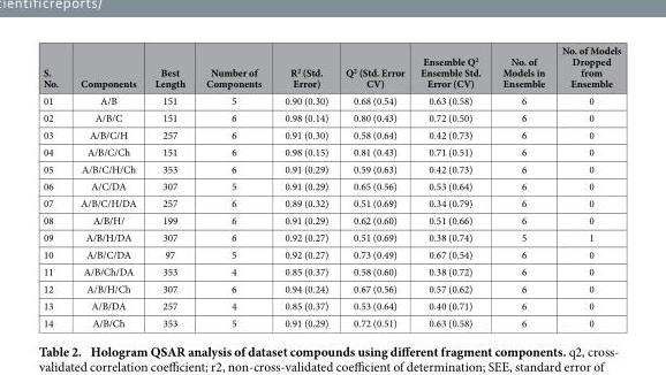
<table><thead><tr><td>S. No.</td><td>Components</td><td>Best Length</td><td>Number of Components</td><td>R<sup>2</sup> (Std. Error)</td><td>Q<sup>2</sup> (Std. Error CV)</td><td>Ensemble Q<sup>2</sup> Ensemble Std. Error (CV)</td><td>No. of Models in Ensemble</td><td>No. of Models Dropped from Ensemble</td></tr></thead><tbody><tr><td>01</td><td>A/B</td><td>151</td><td>5</td><td>0.90 (0.30)</td><td>0.68 (0.54)</td><td>0.63 (0.58)</td><td>6</td><td>0</td></tr><tr><td>02</td><td>A/B/C</td><td>151</td><td>6</td><td>0.98 (0.14)</td><td>0.80 (0.43)</td><td>0.72 (0.50)</td><td>6</td><td>0</td></tr><tr><td>03</td><td>A/B/C/H</td><td>257</td><td>6</td><td>0.91 (0.30)</td><td>0.58 (0.64)</td><td>0.42 (0.73)</td><td>6</td><td>0</td></tr><tr><td>04</td><td>A/B/C/Ch</td><td>151</td><td>6</td><td>0.98 (0.15)</td><td>0.81 (0.43)</td><td>0.71 (0.51)</td><td>6</td><td>0</td></tr><tr><td>05</td><td>A/B/C/H/Ch</td><td>353</td><td>6</td><td>0.91 (0.29)</td><td>0.59 (0.63)</td><td>0.42 (0.73)</td><td>6</td><td>0</td></tr><tr><td>06</td><td>A/C/DA</td><td>307</td><td>5</td><td>0.91 (0.29)</td><td>0.65 (0.56)</td><td>0.53 (0.64)</td><td>6</td><td>0</td></tr><tr><td>07</td><td>A/B/C/H/DA</td><td>257</td><td>6</td><td>0.89 (0.32)</td><td>0.51 (0.69)</td><td>0.34 (0.79)</td><td>6</td><td>0</td></tr><tr><td>08</td><td>A/B/H/</td><td>199</td><td>6</td><td>0.91 (0.29)</td><td>0.62 (0.60)</td><td>0.51 (0.66)</td><td>6</td><td>0</td></tr><tr><td>09</td><td>A/B/H/DA</td><td>307</td><td>6</td><td>0.92 (0.27)</td><td>0.51 (0.69)</td><td>0.38 (0.74)</td><td>5</td><td>1</td></tr><tr><td>10</td><td>A/B/C/DA</td><td>97</td><td>5</td><td>0.92 (0.27)</td><td>0.73 (0.49)</td><td>0.67 (0.54)</td><td>6</td><td>0</td></tr><tr><td>11</td><td>A/B/Ch/DA</td><td>353</td><td>4</td><td>0.85 (0.37)</td><td>0.58 (0.60)</td><td>0.38 (0.72)</td><td>6</td><td>0</td></tr><tr><td>12</td><td>A/B/H/Ch</td><td>307</td><td>6</td><td>0.94 (0.24)</td><td>0.67 (0.56)</td><td>0.57 (0.62)</td><td>6</td><td>0</td></tr><tr><td>13</td><td>A/B/DA</td><td>257</td><td>4</td><td>0.85 (0.37)</td><td>0.53 (0.64)</td><td>0.40 (0.71)</td><td>6</td><td>0</td></tr><tr><td>14</td><td>A/B/Ch</td><td>353</td><td>5</td><td>0.91 (0.29)</td><td>0.72 (0.51)</td><td>0.63 (0.58)</td><td>6</td><td>0</td></tr></tbody></table>